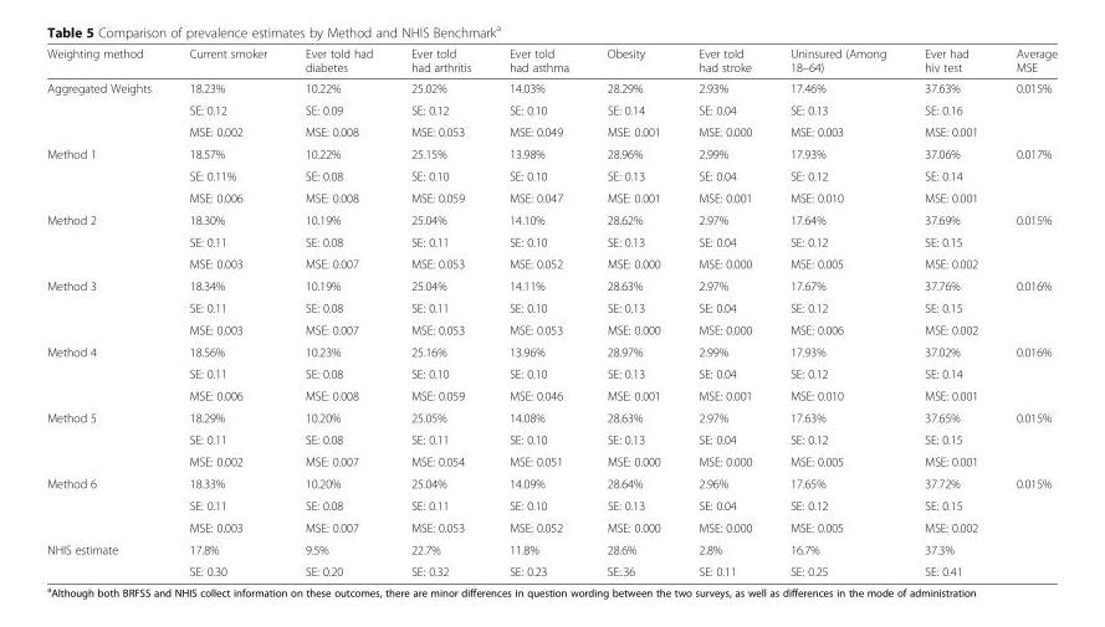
<table><thead><tr><td>Weighting method</td><td>Current smoker</td><td>Ever told had diabetes</td><td>Ever told had arthritis</td><td>Ever told had asthma</td><td>Obesity</td><td>Ever told had stroke</td><td>Uninsured (Among 18–64)</td><td>Ever had hiv test</td><td>Average MSE</td></tr></thead><tbody><tr><td rowspan="3">Aggregated Weights</td><td>18.23%</td><td>10.22%</td><td>25.02%</td><td>14.03%</td><td>28.29%</td><td>2.93%</td><td>17.46%</td><td>37.63%</td><td rowspan="3">0.015%</td></tr><tr><td>SE: 0.12</td><td>SE: 0.09</td><td>SE: 0.12</td><td>SE: 0.10</td><td>SE: 0.14</td><td>SE: 0.04</td><td>SE: 0.13</td><td>SE: 0.16</td></tr><tr><td>MSE: 0.002</td><td>MSE: 0.008</td><td>MSE: 0.053</td><td>MSE: 0.049</td><td>MSE: 0.001</td><td>MSE: 0.000</td><td>MSE: 0.003</td><td>MSE: 0.001</td></tr><tr><td rowspan="3">Method 1</td><td>18.57%</td><td>10.22%</td><td>25.15%</td><td>13.98%</td><td>28.96%</td><td>2.99%</td><td>17.93%</td><td>37.06%</td><td rowspan="3">0.017%</td></tr><tr><td>SE: 0.11%</td><td>SE: 0.08</td><td>SE: 0.10</td><td>SE: 0.10</td><td>SE: 0.13</td><td>SE: 0.04</td><td>SE: 0.12</td><td>SE: 0.14</td></tr><tr><td>MSE: 0.006</td><td>MSE: 0.008</td><td>MSE: 0.059</td><td>MSE: 0.047</td><td>MSE: 0.001</td><td>MSE: 0.001</td><td>MSE: 0.010</td><td>MSE: 0.001</td></tr><tr><td rowspan="3">Method 2</td><td>18.30%</td><td>10.19%</td><td>25.04%</td><td>14.10%</td><td>28.62%</td><td>2.97%</td><td>17.64%</td><td>37.69%</td><td rowspan="3">0.015%</td></tr><tr><td>SE: 0.11</td><td>SE: 0.08</td><td>SE: 0.11</td><td>SE: 0.10</td><td>SE: 0.13</td><td>SE: 0.04</td><td>SE: 0.12</td><td>SE: 0.15</td></tr><tr><td>MSE: 0.003</td><td>MSE: 0.007</td><td>MSE: 0.053</td><td>MSE: 0.052</td><td>MSE: 0.000</td><td>MSE: 0.000</td><td>MSE: 0.005</td><td>MSE: 0.002</td></tr><tr><td rowspan="3">Method 3</td><td>18.34%</td><td>10.19%</td><td>25.04%</td><td>14.11%</td><td>28.63%</td><td>2.97%</td><td>17.67%</td><td>37.76%</td><td rowspan="3">0.016%</td></tr><tr><td>SE: 0.11</td><td>SE: 0.08</td><td>SE: 0.11</td><td>SE: 0.10</td><td>SE: 0.13</td><td>SE: 0.04</td><td>SE: 0.12</td><td>SE: 0.15</td></tr><tr><td>MSE: 0.003</td><td>MSE: 0.007</td><td>MSE: 0.053</td><td>MSE: 0.053</td><td>MSE: 0.000</td><td>MSE: 0.000</td><td>MSE: 0.006</td><td>MSE: 0.002</td></tr><tr><td rowspan="3">Method 4</td><td>18.56%</td><td>10.23%</td><td>25.16%</td><td>13.96%</td><td>28.97%</td><td>2.99%</td><td>17.93%</td><td>37.02%</td><td rowspan="3">0.016%</td></tr><tr><td>SE: 0.11</td><td>SE: 0.08</td><td>SE: 0.10</td><td>SE: 0.10</td><td>SE: 0.13</td><td>SE: 0.04</td><td>SE: 0.12</td><td>SE: 0.14</td></tr><tr><td>MSE: 0.006</td><td>MSE: 0.008</td><td>MSE: 0.059</td><td>MSE: 0.046</td><td>MSE: 0.001</td><td>MSE: 0.001</td><td>MSE: 0.010</td><td>MSE: 0.001</td></tr><tr><td rowspan="3">Method 5</td><td>18.29%</td><td>10.20%</td><td>25.05%</td><td>14.08%</td><td>28.63%</td><td>2.97%</td><td>17.63%</td><td>37.65%</td><td rowspan="3">0.015%</td></tr><tr><td>SE: 0.11</td><td>SE: 0.08</td><td>SE: 0.11</td><td>SE: 0.10</td><td>SE: 0.13</td><td>SE: 0.04</td><td>SE: 0.12</td><td>SE: 0.15</td></tr><tr><td>MSE: 0.002</td><td>MSE: 0.007</td><td>MSE: 0.054</td><td>MSE: 0.051</td><td>MSE: 0.000</td><td>MSE: 0.000</td><td>MSE: 0.005</td><td>MSE: 0.001</td></tr><tr><td rowspan="3">Method 6</td><td>18.33%</td><td>10.20%</td><td>25.04%</td><td>14.09%</td><td>28.64%</td><td>2.96%</td><td>17.65%</td><td>37.72%</td><td rowspan="3">0.015%</td></tr><tr><td>SE: 0.11</td><td>SE: 0.08</td><td>SE: 0.11</td><td>SE: 0.10</td><td>SE: 0.13</td><td>SE: 0.04</td><td>SE: 0.12</td><td>SE: 0.15</td></tr><tr><td>MSE: 0.003</td><td>MSE: 0.007</td><td>MSE: 0.053</td><td>MSE: 0.052</td><td>MSE: 0.000</td><td>MSE: 0.000</td><td>MSE: 0.005</td><td>MSE: 0.002</td></tr><tr><td rowspan="2">NHIS estimate</td><td>17.8%</td><td>9.5%</td><td>22.7%</td><td>11.8%</td><td>28.6%</td><td>2.8%</td><td>16.7%</td><td>37.3%</td><td rowspan="2"></td></tr><tr><td>SE: 0.30</td><td>SE: 0.20</td><td>SE: 0.32</td><td>SE: 0.23</td><td>SE:.36</td><td>SE: 0.11</td><td>SE: 0.25</td><td>SE: 0.41</td></tr></tbody></table>